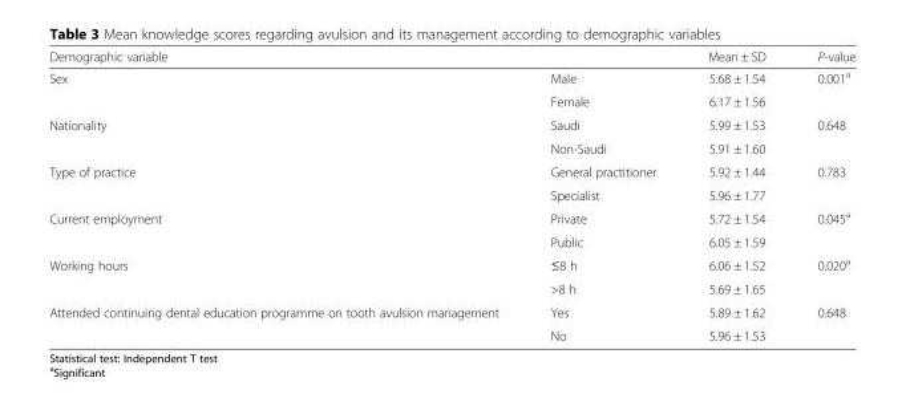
<table><thead><tr><td>Demographic variable</td><td></td><td>Mean ± SD</td><td>P-value</td></tr></thead><tbody><tr><td rowspan="2">Sex</td><td>Male</td><td>5.68 ± 1.54</td><td>0.001<sup>a</sup></td></tr><tr><td>Female</td><td>6.17 ± 1.56</td><td></td></tr><tr><td rowspan="2">Nationality</td><td>Saudi</td><td>5.99 ± 1.53</td><td>0.648</td></tr><tr><td>Non-Saudi</td><td>5.91 ± 1.60</td><td></td></tr><tr><td rowspan="2">Type of practice</td><td>General practitioner</td><td>5.92 ± 1.44</td><td>0.783</td></tr><tr><td>Specialist</td><td>5.96 ± 1.77</td><td></td></tr><tr><td rowspan="2">Current employment</td><td>Private</td><td>5.72 ± 1.54</td><td>0.045<sup>a</sup></td></tr><tr><td>Public</td><td>6.05 ± 1.59</td><td></td></tr><tr><td rowspan="2">Working hours</td><td>≤8 h</td><td>6.06 ± 1.52</td><td>0.020<sup>a</sup></td></tr><tr><td>&gt;8 h</td><td>5.69 ± 1.65</td><td></td></tr><tr><td rowspan="2">Attended continuing dental education programme on tooth avulsion management</td><td>Yes</td><td>5.89 ± 1.62</td><td>0.648</td></tr><tr><td>No</td><td>5.96 ± 1.53</td><td></td></tr></tbody></table>